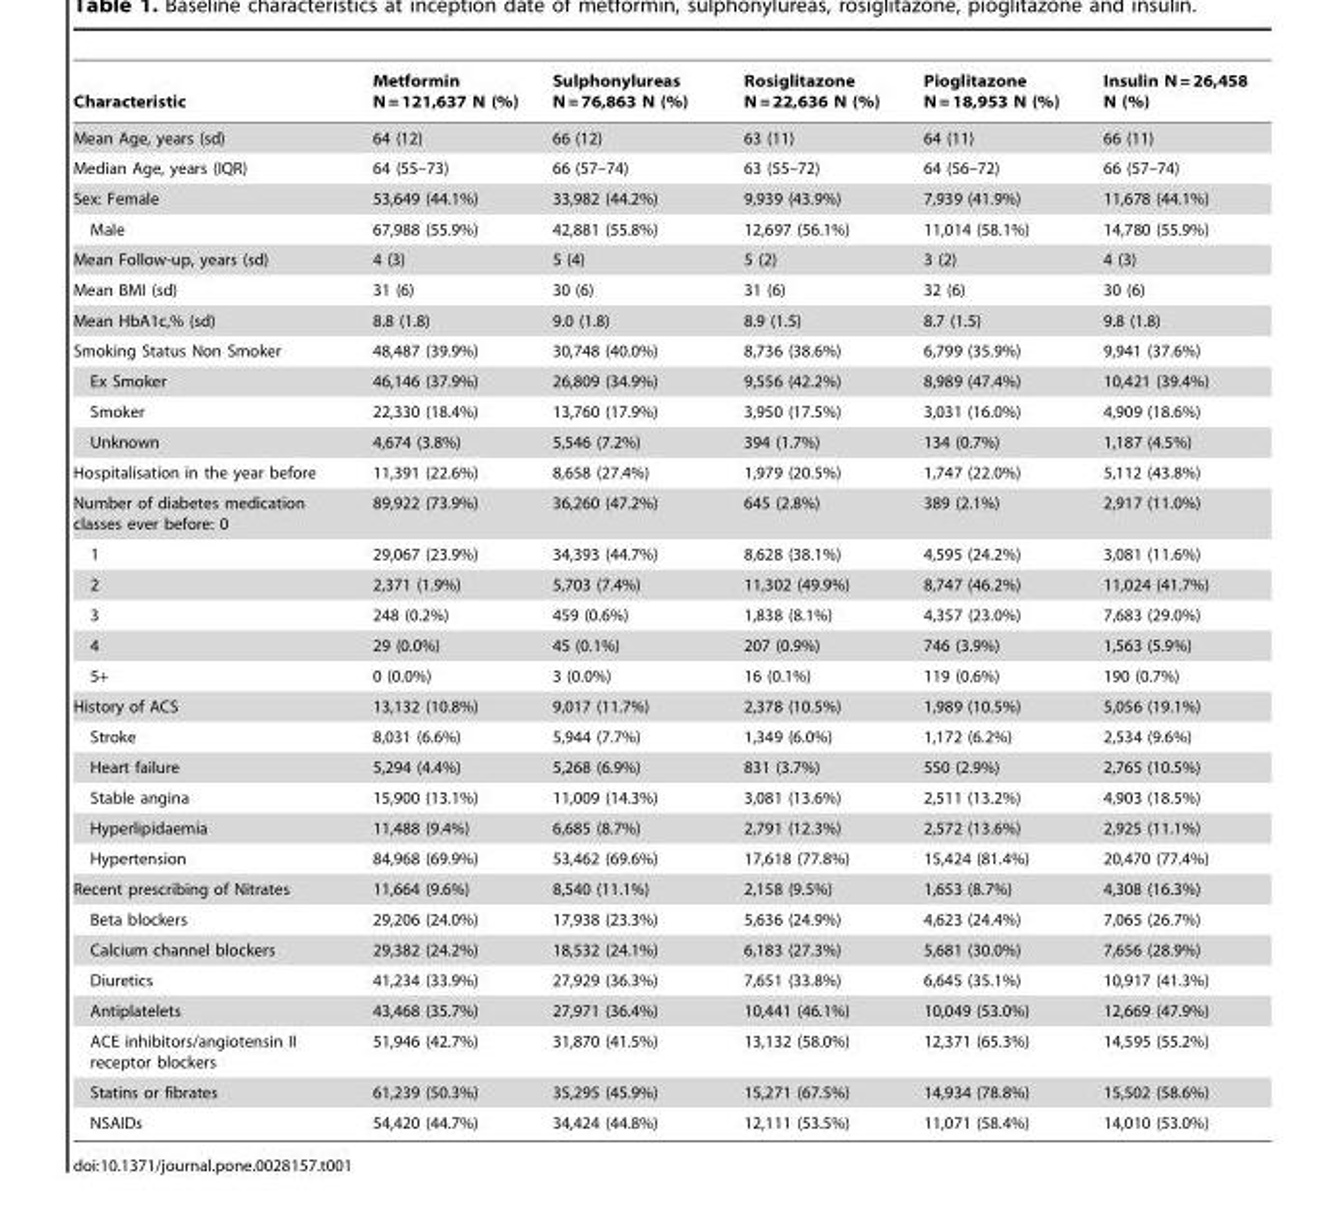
<table><thead><tr><td>Characteristic</td><td>Metformin N = 121,637 N (%)</td><td>Sulphonylureas N = 76,863 N (%)</td><td>Rosiglitazone N = 22,636 N (%)</td><td>Pioglitazone N = 18,953 N (%)</td><td>Insulin N = 26,458 N (%)</td></tr></thead><tbody><tr><td>Mean Age, years (sd)</td><td>64 (12)</td><td>66 (12)</td><td>63 (11)</td><td>64 (11)</td><td>66 (11)</td></tr><tr><td>Median Age, years (IQR)</td><td>64 (55–73)</td><td>66 (57–74)</td><td>63 (55–72)</td><td>64 (56–72)</td><td>66 (57–74)</td></tr><tr><td>Sex: Female</td><td>53,649 (44.1%)</td><td>33,982 (44.2%)</td><td>9,939 (43.9%)</td><td>7,939 (41.9%)</td><td>11,678 (44.1%)</td></tr><tr><td>Male</td><td>67,988 (55.9%)</td><td>42,881 (55.8%)</td><td>12,697 (56.1%)</td><td>11,014 (58.1%)</td><td>14,780 (55.9%)</td></tr><tr><td>Mean Follow-up, years (sd)</td><td>4 (3)</td><td>5 (4)</td><td>5 (2)</td><td>3 (2)</td><td>4 (3)</td></tr><tr><td>Mean BMI (sd)</td><td>31 (6)</td><td>30 (6)</td><td>31 (6)</td><td>32 (6)</td><td>30 (6)</td></tr><tr><td>Mean HbA1c,% (sd)</td><td>8.8 (1.8)</td><td>9.0 (1.8)</td><td>8.9 (1.5)</td><td>8.7 (1.5)</td><td>9.8 (1.8)</td></tr><tr><td>Smoking Status Non Smoker</td><td>48,487 (39.9%)</td><td>30,748 (40.0%)</td><td>8,736 (38.6%)</td><td>6,799 (35.9%)</td><td>9,941 (37.6%)</td></tr><tr><td>Ex Smoker</td><td>46,146 (37.9%)</td><td>26,809 (34.9%)</td><td>9,556 (42.2%)</td><td>8,989 (47.4%)</td><td>10,421 (39.4%)</td></tr><tr><td>Smoker</td><td>22,330 (18.4%)</td><td>13,760 (17.9%)</td><td>3,950 (17.5%)</td><td>3,031 (16.0%)</td><td>4,909 (18.6%)</td></tr><tr><td>Unknown</td><td>4,674 (3.8%)</td><td>5,546 (7.2%)</td><td>394 (1.7%)</td><td>134 (0.7%)</td><td>1,187 (4.5%)</td></tr><tr><td>Hospitalisation in the year before</td><td>11,391 (22.6%)</td><td>8,658 (27.4%)</td><td>1,979 (20.5%)</td><td>1,747 (22.0%)</td><td>5,112 (43.8%)</td></tr><tr><td>Number of diabetes medication classes ever before: 0</td><td>89,922 (73.9%)</td><td>36,260 (47.2%)</td><td>645 (2.8%)</td><td>389 (2.1%)</td><td>2,917 (11.0%)</td></tr><tr><td>1</td><td>29,067 (23.9%)</td><td>34,393 (44.7%)</td><td>8,628 (38.1%)</td><td>4,595 (24.2%)</td><td>3,081 (11.6%)</td></tr><tr><td>2</td><td>2,371 (1.9%)</td><td>5,703 (7.4%)</td><td>11,302 (49.9%)</td><td>8,747 (46.2%)</td><td>11,024 (41.7%)</td></tr><tr><td>3</td><td>248 (0.2%)</td><td>459 (0.6%)</td><td>1,838 (8.1%)</td><td>4,357 (23.0%)</td><td>7,683 (29.0%)</td></tr><tr><td>4</td><td>29 (0.0%)</td><td>45 (0.1%)</td><td>207 (0.9%)</td><td>746 (3.9%)</td><td>1,563 (5.9%)</td></tr><tr><td>5+</td><td>0 (0.0%)</td><td>3 (0.0%)</td><td>16 (0.1%)</td><td>119 (0.6%)</td><td>190 (0.7%)</td></tr><tr><td>History of ACS</td><td>13,132 (10.8%)</td><td>9,017 (11.7%)</td><td>2,378 (10.5%)</td><td>1,989 (10.5%)</td><td>5,056 (19.1%)</td></tr><tr><td>Stroke</td><td>8,031 (6.6%)</td><td>5,944 (7.7%)</td><td>1,349 (6.0%)</td><td>1,172 (6.2%)</td><td>2,534 (9.6%)</td></tr><tr><td>Heart failure</td><td>5,294 (4.4%)</td><td>5,268 (6.9%)</td><td>831 (3.7%)</td><td>550 (2.9%)</td><td>2,765 (10.5%)</td></tr><tr><td>Stable angina</td><td>15,900 (13.1%)</td><td>11,009 (14.3%)</td><td>3,081 (13.6%)</td><td>2,511 (13.2%)</td><td>4,903 (18.5%)</td></tr><tr><td>Hyperlipidaemia</td><td>11,488 (9.4%)</td><td>6,685 (8.7%)</td><td>2,791 (12.3%)</td><td>2,572 (13.6%)</td><td>2,925 (11.1%)</td></tr><tr><td>Hypertension</td><td>84,968 (69.9%)</td><td>53,462 (69.6%)</td><td>17,618 (77.8%)</td><td>15,424 (81.4%)</td><td>20,470 (77.4%)</td></tr><tr><td>Recent prescribing of Nitrates</td><td>11,664 (9.6%)</td><td>8,540 (11.1%)</td><td>2,158 (9.5%)</td><td>1,653 (8.7%)</td><td>4,308 (16.3%)</td></tr><tr><td>Beta blockers</td><td>29,206 (24.0%)</td><td>17,938 (23.3%)</td><td>5,636 (24.9%)</td><td>4,623 (24.4%)</td><td>7,065 (26.7%)</td></tr><tr><td>Calcium channel blockers</td><td>29,382 (24.2%)</td><td>18,532 (24.1%)</td><td>6,183 (27.3%)</td><td>5,681 (30.0%)</td><td>7,656 (28.9%)</td></tr><tr><td>Diuretics</td><td>41,234 (33.9%)</td><td>27,929 (36.3%)</td><td>7,651 (33.8%)</td><td>6,645 (35.1%)</td><td>10,917 (41.3%)</td></tr><tr><td>Antiplatelets</td><td>43,468 (35.7%)</td><td>27,971 (36.4%)</td><td>10,441 (46.1%)</td><td>10,049 (53.0%)</td><td>12,669 (47.9%)</td></tr><tr><td>ACE inhibitors/angiotensin II receptor blockers</td><td>51,946 (42.7%)</td><td>31,870 (41.5%)</td><td>13,132 (58.0%)</td><td>12,371 (65.3%)</td><td>14,595 (55.2%)</td></tr><tr><td>Statins or fibrates</td><td>61,239 (50.3%)</td><td>35,295 (45.9%)</td><td>15,271 (67.5%)</td><td>14,934 (78.8%)</td><td>15,502 (58.6%)</td></tr><tr><td>NSAIDs</td><td>54,420 (44.7%)</td><td>34,424 (44.8%)</td><td>12,111 (53.5%)</td><td>11,071 (58.4%)</td><td>14,010 (53.0%)</td></tr></tbody></table>